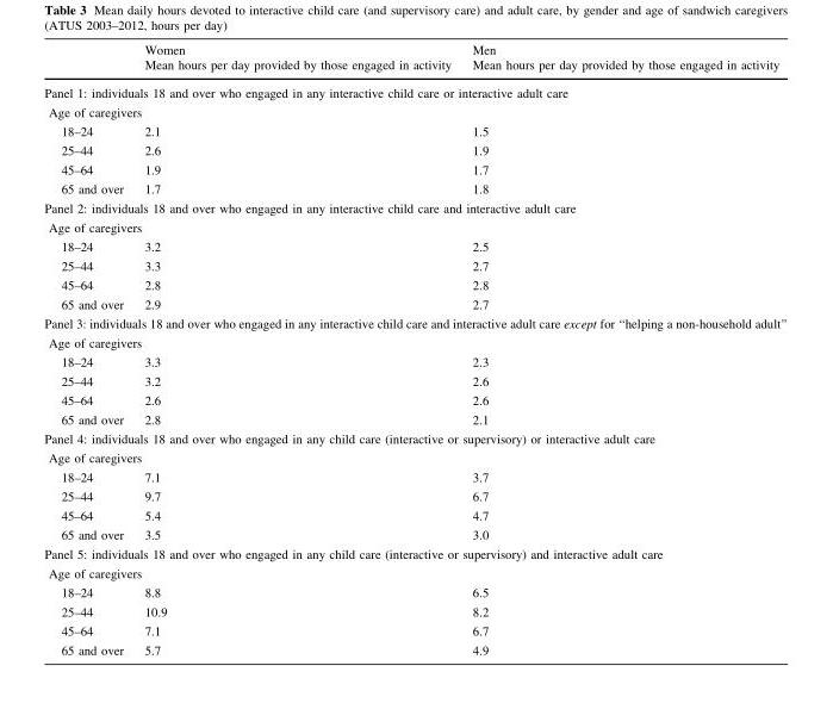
<table><thead><tr><td rowspan="2"></td><td rowspan="2">Women Mean hours per day provided by those engaged in activity</td><td rowspan="2">Men Mean hours per day provided by those engaged in activity</td></tr><tr></tr></thead><tbody><tr><td colspan="3">Panel 1: individuals 18 and over who engaged in any interactive child care or interactive adult care</td></tr><tr><td colspan="3">Age of caregivers</td></tr><tr><td>18–24</td><td>2.1</td><td>1.5</td></tr><tr><td>25–44</td><td>2.6</td><td>1.9</td></tr><tr><td>45–64</td><td>1.9</td><td>1.7</td></tr><tr><td>65 and over</td><td>1.7</td><td>1.8</td></tr><tr><td colspan="3">Panel 2: individuals 18 and over who engaged in any interactive child care and interactive adult care</td></tr><tr><td colspan="3">Age of caregivers</td></tr><tr><td>18–24</td><td>3.2</td><td>2.5</td></tr><tr><td>25–44</td><td>3.3</td><td>2.7</td></tr><tr><td>45–64</td><td>2.8</td><td>2.8</td></tr><tr><td>65 and over</td><td>2.9</td><td>2.7</td></tr><tr><td colspan="3">Panel 3: individuals 18 and over who engaged in any interactive child care and interactive adult care except for ‘‘helping a non-household adult’’</td></tr><tr><td colspan="3">Age of caregivers</td></tr><tr><td>18–24</td><td>3.3</td><td>2.3</td></tr><tr><td>25–44</td><td>3.2</td><td>2.6</td></tr><tr><td>45–64</td><td>2.6</td><td>2.6</td></tr><tr><td>65 and over</td><td>2.8</td><td>2.1</td></tr><tr><td colspan="3">Panel 4: individuals 18 and over who engaged in any child care (interactive or supervisory) or interactive adult care</td></tr><tr><td colspan="3">Age of caregivers</td></tr><tr><td>18–24</td><td>7.1</td><td>3.7</td></tr><tr><td>25–44</td><td>9.7</td><td>6.7</td></tr><tr><td>45–64</td><td>5.4</td><td>4.7</td></tr><tr><td>65 and over</td><td>3.5</td><td>3.0</td></tr><tr><td colspan="3">Panel 5: individuals 18 and over who engaged in any child care (interactive or supervisory) and interactive adult care</td></tr><tr><td colspan="3">Age of caregivers</td></tr><tr><td>18–24</td><td>8.8</td><td>6.5</td></tr><tr><td>25–44</td><td>10.9</td><td>8.2</td></tr><tr><td>45–64</td><td>7.1</td><td>6.7</td></tr><tr><td>65 and over</td><td>5.7</td><td>4.9</td></tr></tbody></table>